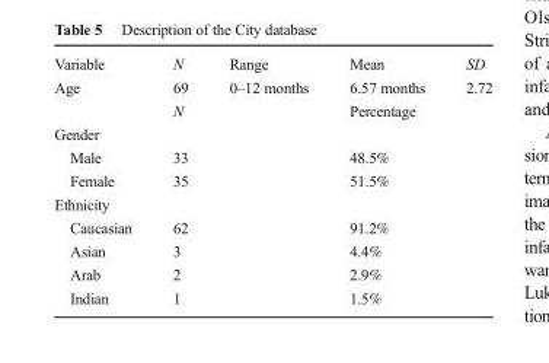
<table><tbody><tr><td>Variable</td><td>N</td><td>Range</td><td>Mean</td><td>SD</td></tr><tr><td rowspan="2">Age</td><td>69</td><td>0–12 months</td><td>6.57 months</td><td>2.72</td></tr><tr><td>N</td><td></td><td>Percentage</td><td></td></tr><tr><td colspan="5">Gender</td></tr><tr><td>Male</td><td>33</td><td></td><td>48.5%</td><td></td></tr><tr><td>Female</td><td>35</td><td></td><td>51.5%</td><td></td></tr><tr><td colspan="5">Ethnicity</td></tr><tr><td>Caucasian</td><td>62</td><td></td><td>91.2%</td><td></td></tr><tr><td>Asian</td><td>3</td><td></td><td>4.4%</td><td></td></tr><tr><td>Arab</td><td>2</td><td></td><td>2.9%</td><td></td></tr><tr><td>Indian</td><td>1</td><td></td><td>1.5%</td><td></td></tr></tbody></table>